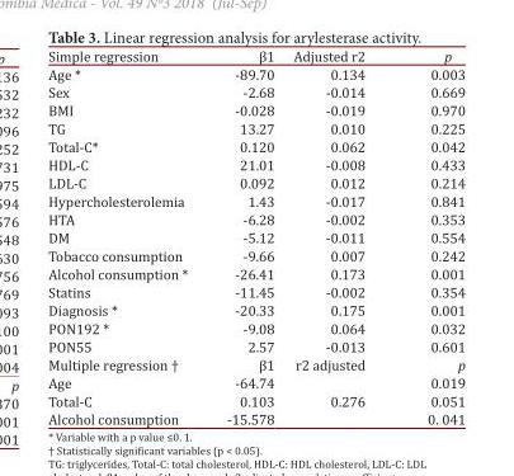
<table><thead><tr><td>Simple regression</td><td>β1</td><td>Adjusted r<sup>2</sup></td><td>p</td></tr></thead><tbody><tr><td>Age *</td><td>-89.70</td><td>0.134</td><td>0.003</td></tr><tr><td>Sex</td><td>-2.68</td><td>-0.014</td><td>0.669</td></tr><tr><td>BMI</td><td>-0.028</td><td>-0.019</td><td>0.970</td></tr><tr><td>TG</td><td>13.27</td><td>0.010</td><td>0.225</td></tr><tr><td>Total-C*</td><td>0.120</td><td>0.062</td><td>0.042</td></tr><tr><td>HDL-C</td><td>21.01</td><td>-0.008</td><td>0.433</td></tr><tr><td>LDL-C</td><td>0.092</td><td>0.012</td><td>0.214</td></tr><tr><td>Hypercholesterolemia</td><td>1.43</td><td>-0.017</td><td>0.841</td></tr><tr><td>HTA</td><td>-6.28</td><td>-0.002</td><td>0.353</td></tr><tr><td>DM</td><td>-5.12</td><td>-0.011</td><td>0.554</td></tr><tr><td>Tobacco consumption</td><td>-9.66</td><td>0.007</td><td>0.242</td></tr><tr><td>Alcohol consumption *</td><td>-26.41</td><td>0.173</td><td>0.001</td></tr><tr><td>Statins</td><td>-11.45</td><td>-0.002</td><td>0.354</td></tr><tr><td>Diagnosis *</td><td>-20.33</td><td>0.175</td><td>0.001</td></tr><tr><td>PON192 *</td><td>-9.08</td><td>0.064</td><td>0.032</td></tr><tr><td>PON55</td><td>2.57</td><td>-0.013</td><td>0.601</td></tr><tr><td>Multiple regression <sup>†</sup></td><td>β1</td><td>r<sup>2</sup> adjusted</td><td>p</td></tr><tr><td>Age</td><td>-64.74</td><td></td><td>0.019</td></tr><tr><td>Total-C</td><td>0.103</td><td>0.276</td><td>0.051</td></tr><tr><td>Alcohol consumption</td><td>-15.578</td><td></td><td>0. 041</td></tr></tbody></table>